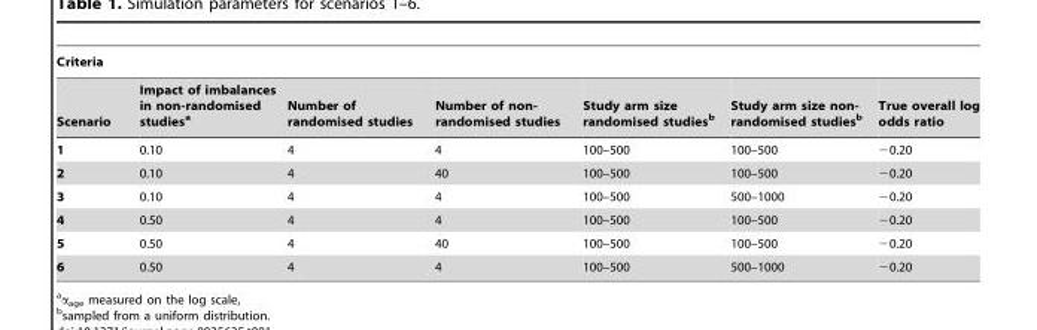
<table><thead><tr><td colspan="7">Criteria</td></tr><tr><td>Scenario</td><td>Impact of imbalances in non-randomised studies<sup>a</sup></td><td>Number of randomised studies</td><td>Number of non- randomised studies</td><td>Study arm size randomised studies<sup>b</sup></td><td>Study arm size non- randomised studies<sup>b</sup></td><td>True overall log odds ratio</td></tr></thead><tbody><tr><td>1</td><td>0.10</td><td>4</td><td>4</td><td>100–500</td><td>100–500</td><td>−0.20</td></tr><tr><td>2</td><td>0.10</td><td>4</td><td>40</td><td>100–500</td><td>100–500</td><td>−0.20</td></tr><tr><td>3</td><td>0.10</td><td>4</td><td>4</td><td>100–500</td><td>500–1000</td><td>−0.20</td></tr><tr><td>4</td><td>0.50</td><td>4</td><td>4</td><td>100–500</td><td>100–500</td><td>−0.20</td></tr><tr><td>5</td><td>0.50</td><td>4</td><td>40</td><td>100–500</td><td>100–500</td><td>−0.20</td></tr><tr><td>6</td><td>0.50</td><td>4</td><td>4</td><td>100–500</td><td>500–1000</td><td>−0.20</td></tr></tbody></table>